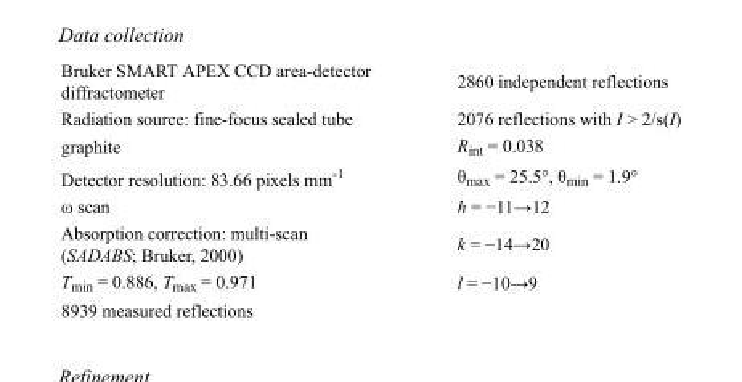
<table><tbody><tr><td>Bruker SMART APEX CCD area-detector diffractometer</td><td>2860 independent reflections</td></tr><tr><td>Radiation source: fine-focus sealed tube</td><td>2076 reflections with I &gt; 2/s(I)</td></tr><tr><td>graphite</td><td>R<sub>int</sub> = 0.038</td></tr><tr><td>Detector resolution: 83.66 pixels mm<sup>-1</sup></td><td>θ<sub>max</sub> = 25.5°, θ<sub>min</sub> = 1.9°</td></tr><tr><td>ω scan</td><td>h = −11→12</td></tr><tr><td>Absorption correction: multi-scan (SADABS; Bruker, 2000)</td><td>k = −14→20</td></tr><tr><td>T<sub>min</sub> = 0.886, T<sub>max</sub> = 0.971</td><td>l = −10→9</td></tr><tr><td>8939 measured reflections</td><td></td></tr></tbody></table>